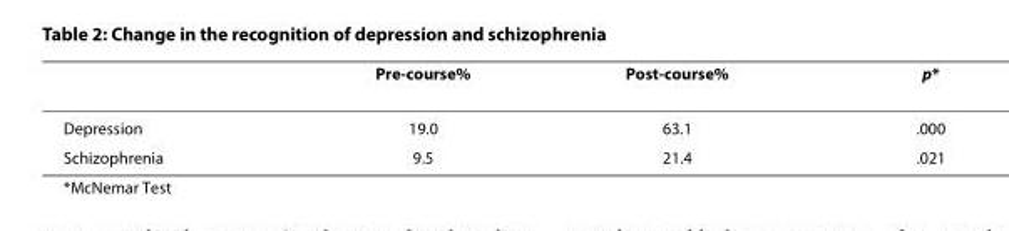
<table><thead><tr><td></td><td>Pre-course%</td><td>Post-course%</td><td>p*</td></tr></thead><tbody><tr><td>Depression</td><td>19.0</td><td>63.1</td><td>.000</td></tr><tr><td>Schizophrenia</td><td>9.5</td><td>21.4</td><td>.021</td></tr></tbody></table>